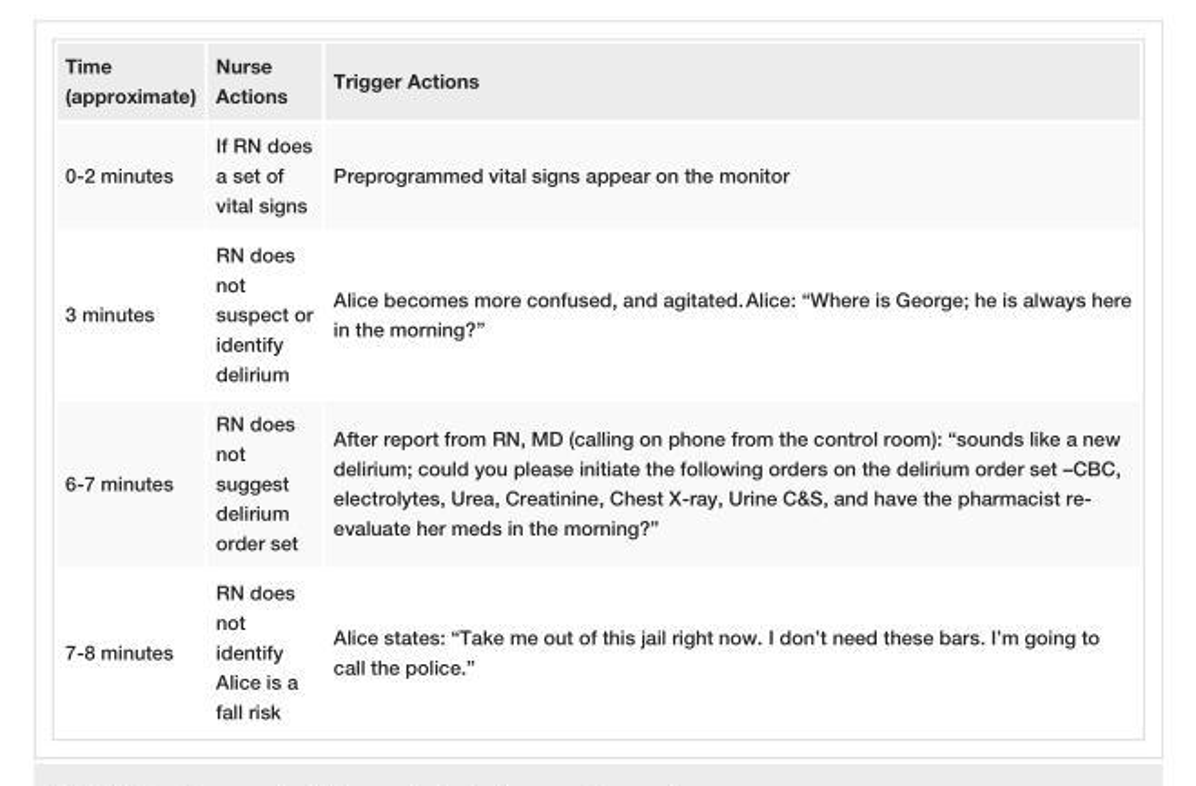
<table><tbody><tr><td>Time (approximate)</td><td>Nurse Actions</td><td>Trigger Actions</td></tr><tr><td>0-2 minutes</td><td>If RN does a set of vital signs</td><td>Preprogrammed vital signs appear on the monitor</td></tr><tr><td>3 minutes</td><td>RN does not suspect or identify delirium</td><td>Alice becomes more confused, and agitated. Alice: “Where is George; he is always here in the morning?”</td></tr><tr><td>6-7 minutes</td><td>RN does not suggest delirium order set</td><td>After report from RN, MD (calling on phone from the control room): “sounds like a new delirium; could you please initiate the following orders on the delirium order set –CBC, electrolytes, Urea, Creatinine, Chest X-ray, Urine C&amp;S, and have the pharmacist re- evaluate her meds in the morning?”</td></tr><tr><td>7-8 minutes</td><td>RN does not identify Alice is a fall risk</td><td>Alice states: “Take me out of this jail right now. I don’t need these bars. I’m going to call the police.”</td></tr></tbody></table>